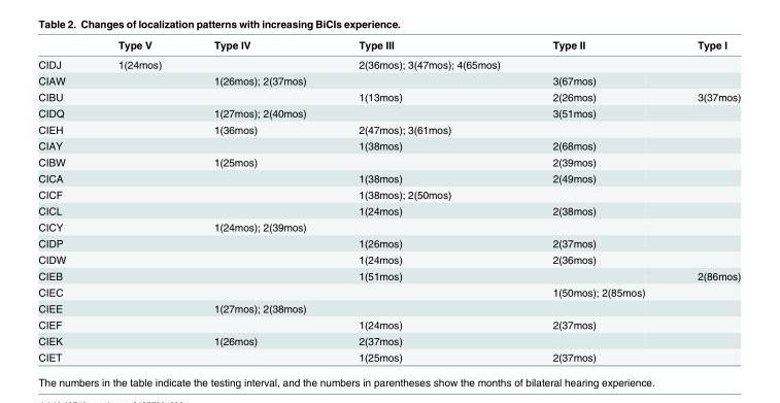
<table><thead><tr><td></td><td>Type V</td><td>Type IV</td><td>Type III</td><td>Type II</td><td>Type I</td></tr></thead><tbody><tr><td>CIDJ</td><td>1(24mos)</td><td></td><td>2(36mos); 3(47mos); 4(65mos)</td><td></td><td></td></tr><tr><td>CIAW</td><td></td><td>1(26mos); 2(37mos)</td><td></td><td>3(67mos)</td><td></td></tr><tr><td>CIBU</td><td></td><td></td><td>1(13mos)</td><td>2(26mos)</td><td>3(37mos)</td></tr><tr><td>CIDQ</td><td></td><td>1(27mos); 2(40mos)</td><td></td><td>3(51mos)</td><td></td></tr><tr><td>CIEH</td><td></td><td>1(36mos)</td><td>2(47mos); 3(61mos)</td><td></td><td></td></tr><tr><td>CIAY</td><td></td><td></td><td>1(38mos)</td><td>2(68mos)</td><td></td></tr><tr><td>CIBW</td><td></td><td>1(25mos)</td><td></td><td>2(39mos)</td><td></td></tr><tr><td>CICA</td><td></td><td></td><td>1(38mos)</td><td>2(49mos)</td><td></td></tr><tr><td>CICF</td><td></td><td></td><td>1(38mos); 2(50mos)</td><td></td><td></td></tr><tr><td>CICL</td><td></td><td></td><td>1(24mos)</td><td>2(38mos)</td><td></td></tr><tr><td>CICY</td><td></td><td>1(24mos); 2(39mos)</td><td></td><td></td><td></td></tr><tr><td>CIDP</td><td></td><td></td><td>1(26mos)</td><td>2(37mos)</td><td></td></tr><tr><td>CIDW</td><td></td><td></td><td>1(24mos)</td><td>2(36mos)</td><td></td></tr><tr><td>CIEB</td><td></td><td></td><td>1(51mos)</td><td></td><td>2(86mos)</td></tr><tr><td>CIEC</td><td></td><td></td><td></td><td>1(50mos); 2(85mos)</td><td></td></tr><tr><td>CIEE</td><td></td><td>1(27mos); 2(38mos)</td><td></td><td></td><td></td></tr><tr><td>CIEF</td><td></td><td></td><td>1(24mos)</td><td>2(37mos)</td><td></td></tr><tr><td>CIEK</td><td></td><td>1(26mos)</td><td>2(37mos)</td><td></td><td></td></tr><tr><td>CIET</td><td></td><td></td><td>1(25mos)</td><td>2(37mos)</td><td></td></tr></tbody></table>